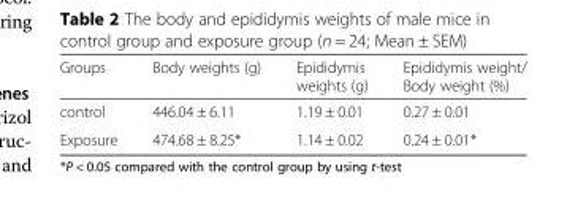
<table><thead><tr><td>Groups</td><td>Body weights (g)</td><td>Epididymis weights (g)</td><td>Epididymis weight/ Body weight (%)</td></tr></thead><tbody><tr><td>control</td><td>446.04 ± 6.11</td><td>1.19 ± 0.01</td><td>0.27 ± 0.01</td></tr><tr><td>Exposure</td><td>474.68 ± 8.25*</td><td>1.14 ± 0.02</td><td>0.24 ± 0.01*</td></tr></tbody></table>